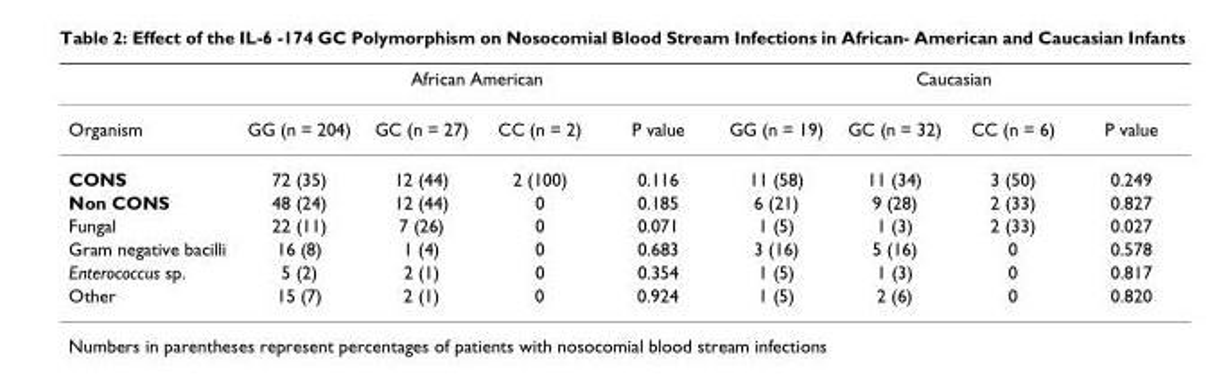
<table><thead><tr><td rowspan="2">Organism</td><td colspan="4">African American</td><td colspan="4">Caucasian</td></tr><tr><td>GG (n = 204)</td><td>GC (n = 27)</td><td>CC (n = 2)</td><td>P value</td><td>GG (n = 19)</td><td>GC (n = 32)</td><td>CC (n = 6)</td><td>P value</td></tr></thead><tbody><tr><td>CONS</td><td>72 (35)</td><td>12 (44)</td><td>2 (100)</td><td>0.116</td><td>11 (58)</td><td>11 (34)</td><td>3 (50)</td><td>0.249</td></tr><tr><td>Non CONS</td><td>48 (24)</td><td>12 (44)</td><td>0</td><td>0.185</td><td>6 (21)</td><td>9 (28)</td><td>2 (33)</td><td>0.827</td></tr><tr><td>Fungal</td><td>22 (11)</td><td>7 (26)</td><td>0</td><td>0.071</td><td>1 (5)</td><td>1 (3)</td><td>2 (33)</td><td>0.027</td></tr><tr><td>Gram negative bacilli</td><td>16 (8)</td><td>1 (4)</td><td>0</td><td>0.683</td><td>3 (16)</td><td>5 (16)</td><td>0</td><td>0.578</td></tr><tr><td>Enterococcus sp.</td><td>5 (2)</td><td>2 (1)</td><td>0</td><td>0.354</td><td>1 (5)</td><td>1 (3)</td><td>0</td><td>0.817</td></tr><tr><td>Other</td><td>15 (7)</td><td>2 (1)</td><td>0</td><td>0.924</td><td>1 (5)</td><td>2 (6)</td><td>0</td><td>0.820</td></tr></tbody></table>